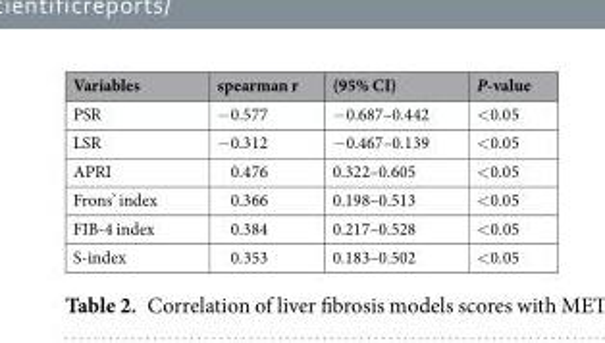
<table><thead><tr><td>Variables</td><td>spearman r</td><td>(95% CI)</td><td>P-value</td></tr></thead><tbody><tr><td>PSR</td><td>−0.577</td><td>−0.687–0.442</td><td>&lt;0.05</td></tr><tr><td>LSR</td><td>−0.312</td><td>−0.467–0.139</td><td>&lt;0.05</td></tr><tr><td>APRI</td><td>0.476</td><td>0.322–0.605</td><td>&lt;0.05</td></tr><tr><td>Frons’ index</td><td>0.366</td><td>0.198–0.513</td><td>&lt;0.05</td></tr><tr><td>FIB-4 index</td><td>0.384</td><td>0.217–0.528</td><td>&lt;0.05</td></tr><tr><td>S-index</td><td>0.353</td><td>0.183–0.502</td><td>&lt;0.05</td></tr></tbody></table>